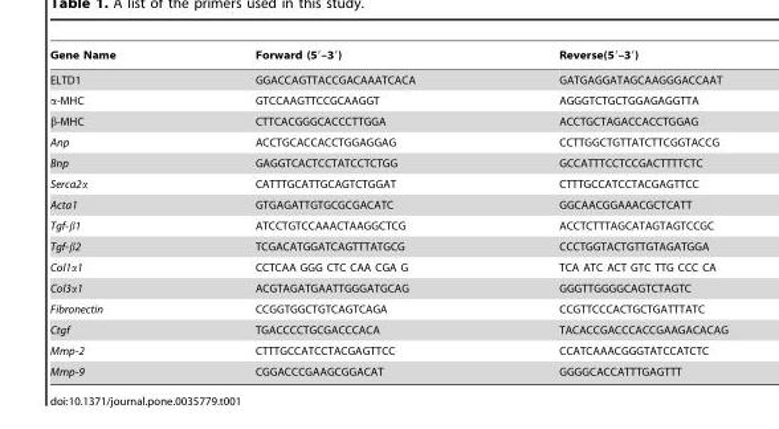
<table><thead><tr><td>Gene Name</td><td>Forward (5′–3′)</td><td>Reverse(5′–3′)</td></tr></thead><tbody><tr><td>ELTD1</td><td>GGACCAGTTACCGACAAATCACA</td><td>GATGAGGATAGCAAGGGACCAAT</td></tr><tr><td>α-MHC</td><td>GTCCAAGTTCCGCAAGGT</td><td>AGGGTCTGCTGGAGAGGTTA</td></tr><tr><td>β-MHC</td><td>CTTCACGGGCACCCTTGGA</td><td>ACCTGCTAGACCACCTGGAG</td></tr><tr><td>Anp</td><td>ACCTGCACCACCTGGAGGAG</td><td>CCTTGGCTGTTATCTTCGGTACCG</td></tr><tr><td>Bnp</td><td>GAGGTCACTCCTATCCTCTGG</td><td>GCCATTTCCTCCGACTTTTCTC</td></tr><tr><td>Serca2α</td><td>CATTTGCATTGCAGTCTGGAT</td><td>CTTTGCCATCCTACGAGTTCC</td></tr><tr><td>Acta1</td><td>GTGAGATTGTGCGCGACATC</td><td>GGCAACGGAAACGCTCATT</td></tr><tr><td>Tgf-β1</td><td>ATCCTGTCCAAACTAAGGCTCG</td><td>ACCTCTTTAGCATAGTAGTCCGC</td></tr><tr><td>Tgf-β2</td><td>TCGACATGGATCAGTTTATGCG</td><td>CCCTGGTACTGTTGTAGATGGA</td></tr><tr><td>Col1α1</td><td>CCTCAA GGG CTC CAA CGA G</td><td>TCA ATC ACT GTC TTG CCC CA</td></tr><tr><td>Col3α1</td><td>ACGTAGATGAATTGGGATGCAG</td><td>GGGTTGGGGCAGTCTAGTC</td></tr><tr><td>Fibronectin</td><td>CCGGTGGCTGTCAGTCAGA</td><td>CCGTTCCCACTGCTGATTTATC</td></tr><tr><td>Ctgf</td><td>TGACCCCTGCGACCCACA</td><td>TACACCGACCCACCGAAGACACAG</td></tr><tr><td>Mmp-2</td><td>CTTTGCCATCCTACGAGTTCC</td><td>CCATCAAACGGGTATCCATCTC</td></tr><tr><td>Mmp-9</td><td>CGGACCCGAAGCGGACAT</td><td>GGGGCACCATTTGAGTTT</td></tr></tbody></table>